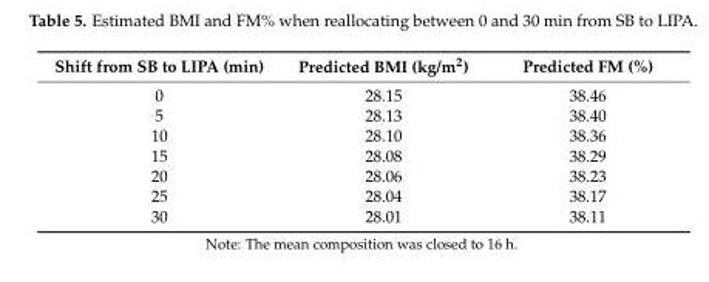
<table><thead><tr><td>Shift from SB to LIPA (min)</td><td>Predicted BMI (kg/m<sup>2</sup>)</td><td>Predicted FM (%)</td></tr></thead><tbody><tr><td>0</td><td>28.15</td><td>38.46</td></tr><tr><td>5</td><td>28.13</td><td>38.40</td></tr><tr><td>10</td><td>28.10</td><td>38.36</td></tr><tr><td>15</td><td>28.08</td><td>38.29</td></tr><tr><td>20</td><td>28.06</td><td>38.23</td></tr><tr><td>25</td><td>28.04</td><td>38.17</td></tr><tr><td>30</td><td>28.01</td><td>38.11</td></tr></tbody></table>